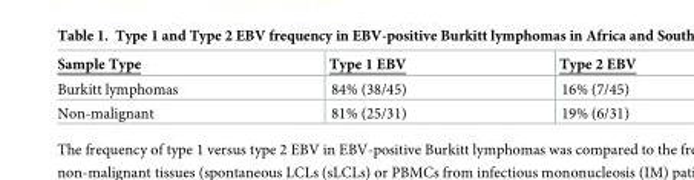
<table><thead><tr><td>Sample Type</td><td>Type 1 EBV</td><td>Type 2 EBV</td></tr></thead><tbody><tr><td>Burkitt lymphomas</td><td>84% (38/45)</td><td>16% (7/45)</td></tr><tr><td>Non-malignant</td><td>81% (25/31)</td><td>19% (6/31)</td></tr></tbody></table>